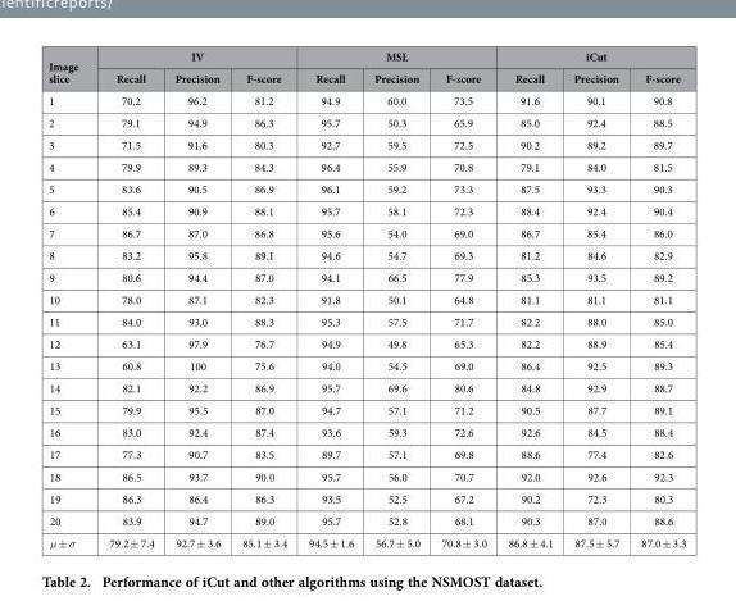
<table><thead><tr><td rowspan="2">Image slice</td><td colspan="3">IV</td><td colspan="3">MSL</td><td colspan="3">iCut</td></tr><tr><td>Recall</td><td>Precision</td><td>F-score</td><td>Recall</td><td>Precision</td><td>F-score</td><td>Recall</td><td>Precision</td><td>F-score</td></tr></thead><tbody><tr><td>1</td><td>70.2</td><td>96.2</td><td>81.2</td><td>94.9</td><td>60.0</td><td>73.5</td><td>91.6</td><td>90.1</td><td>90.8</td></tr><tr><td>2</td><td>79.1</td><td>94.9</td><td>86.3</td><td>95.7</td><td>50.3</td><td>65.9</td><td>85.0</td><td>92.4</td><td>88.5</td></tr><tr><td>3</td><td>71.5</td><td>91.6</td><td>80.3</td><td>92.7</td><td>59.5</td><td>72.5</td><td>90.2</td><td>89.2</td><td>89.7</td></tr><tr><td>4</td><td>79.9</td><td>89.3</td><td>84.3</td><td>96.4</td><td>55.9</td><td>70.8</td><td>79.1</td><td>84.0</td><td>81.5</td></tr><tr><td>5</td><td>83.6</td><td>90.5</td><td>86.9</td><td>96.1</td><td>59.2</td><td>73.3</td><td>87.5</td><td>93.3</td><td>90.3</td></tr><tr><td>6</td><td>85.4</td><td>90.9</td><td>88.1</td><td>95.7</td><td>58.1</td><td>72.3</td><td>88.4</td><td>92.4</td><td>90.4</td></tr><tr><td>7</td><td>86.7</td><td>87.0</td><td>86.8</td><td>95.6</td><td>54.0</td><td>69.0</td><td>86.7</td><td>85.4</td><td>86.0</td></tr><tr><td>8</td><td>83.2</td><td>95.8</td><td>89.1</td><td>94.6</td><td>54.7</td><td>69.3</td><td>81.2</td><td>84.6</td><td>82.9</td></tr><tr><td>9</td><td>80.6</td><td>94.4</td><td>87.0</td><td>94.1</td><td>66.5</td><td>77.9</td><td>85.3</td><td>93.5</td><td>89.2</td></tr><tr><td>10</td><td>78.0</td><td>87.1</td><td>82.3</td><td>91.8</td><td>50.1</td><td>64.8</td><td>81.1</td><td>81.1</td><td>81.1</td></tr><tr><td>11</td><td>84.0</td><td>93.0</td><td>88.3</td><td>95.3</td><td>57.5</td><td>71.7</td><td>82.2</td><td>88.0</td><td>85.0</td></tr><tr><td>12</td><td>63.1</td><td>97.9</td><td>76.7</td><td>94.9</td><td>49.8</td><td>65.3</td><td>82.2</td><td>88.9</td><td>85.4</td></tr><tr><td>13</td><td>60.8</td><td>100</td><td>75.6</td><td>94.0</td><td>54.5</td><td>69.0</td><td>86.4</td><td>92.5</td><td>89.3</td></tr><tr><td>14</td><td>82.1</td><td>92.2</td><td>86.9</td><td>95.7</td><td>69.6</td><td>80.6</td><td>84.8</td><td>92.9</td><td>88.7</td></tr><tr><td>15</td><td>79.9</td><td>95.5</td><td>87.0</td><td>94.7</td><td>57.1</td><td>71.2</td><td>90.5</td><td>87.7</td><td>89.1</td></tr><tr><td>16</td><td>83.0</td><td>92.4</td><td>87.4</td><td>93.6</td><td>59.3</td><td>72.6</td><td>92.6</td><td>84.5</td><td>88.4</td></tr><tr><td>17</td><td>77.3</td><td>90.7</td><td>83.5</td><td>89.7</td><td>57.1</td><td>69.8</td><td>88.6</td><td>77.4</td><td>82.6</td></tr><tr><td>18</td><td>86.5</td><td>93.7</td><td>90.0</td><td>95.7</td><td>56.0</td><td>70.7</td><td>92.0</td><td>92.6</td><td>92.3</td></tr><tr><td>19</td><td>86.3</td><td>86.4</td><td>86.3</td><td>93.5</td><td>52.5</td><td>67.2</td><td>90.2</td><td>72.3</td><td>80.3</td></tr><tr><td>20</td><td>83.9</td><td>94.7</td><td>89.0</td><td>95.7</td><td>52.8</td><td>68.1</td><td>90.3</td><td>87.0</td><td>88.6</td></tr><tr><td>μ ± σ</td><td>79.2 ± 7.4</td><td>92.7 ± 3.6</td><td>85.1 ± 3.4</td><td>94.5 ± 1.6</td><td>56.7 ± 5.0</td><td>70.8 ± 3.0</td><td>86.8 ± 4.1</td><td>87.5 ± 5.7</td><td>87.0 ± 3.3</td></tr></tbody></table>